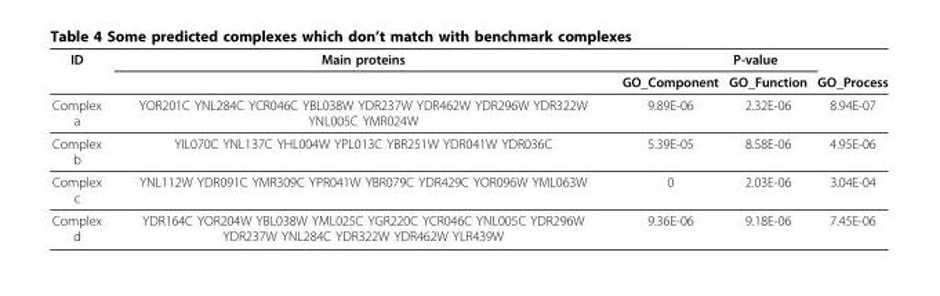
<table><thead><tr><td rowspan="2">ID</td><td rowspan="2">Main proteins</td><td colspan="3">P-value</td></tr><tr><td>GO_Component</td><td>GO_Function</td><td>GO_Process</td></tr></thead><tbody><tr><td>Complex a</td><td>YOR201C YNL284C YCR046C YBL038W YDR237W YDR462W YDR296W YDR322W YNL005C YMR024W</td><td>9.89E-06</td><td>2.32E-06</td><td>8.94E-07</td></tr><tr><td>Complex b</td><td>YIL070C YNL137C YHL004W YPL013C YBR251W YDR041W YDR036C</td><td>5.39E-05</td><td>8.58E-06</td><td>4.95E-06</td></tr><tr><td>Complex c</td><td>YNL112W YDR091C YMR309C YPR041W YBR079C YDR429C YOR096W YML063W</td><td>0</td><td>2.03E-06</td><td>3.04E-04</td></tr><tr><td>Complex d</td><td>YDR164C YOR204W YBL038W YML025C YGR220C YCR046C YNL005C YDR296W YDR237W YNL284C YDR322W YDR462W YLR439W</td><td>9.36E-06</td><td>9.18E-06</td><td>7.45E-06</td></tr></tbody></table>